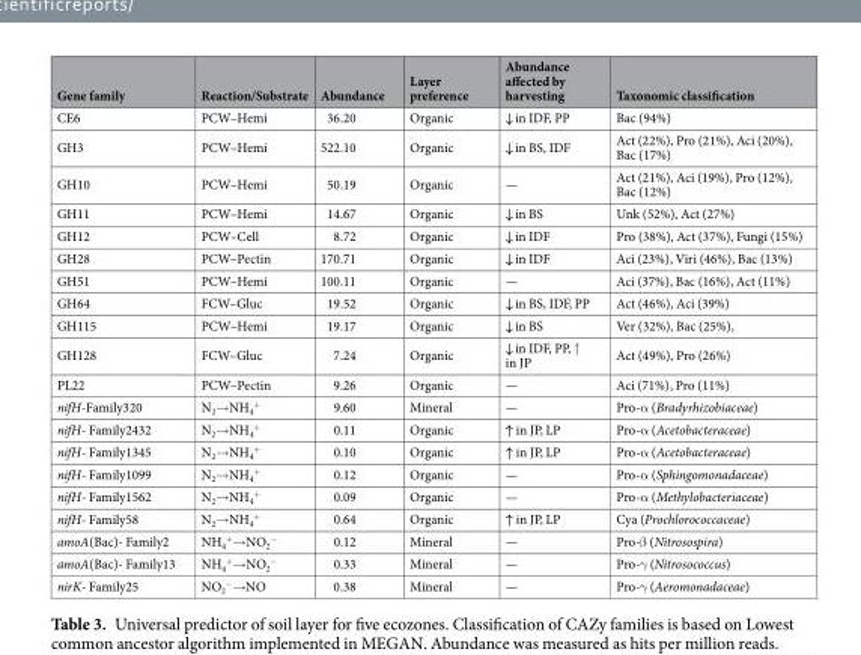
<table><thead><tr><td>Gene family</td><td>Reaction/Substrate</td><td>Abundance</td><td>Layer preference</td><td>Abundance affected by harvesting</td><td>Taxonomic classification</td></tr></thead><tbody><tr><td>CE6</td><td>PCW–Hemi</td><td>36.20</td><td>Organic</td><td>↓ in IDF, PP</td><td>Bac (94%)</td></tr><tr><td>GH3</td><td>PCW–Hemi</td><td>522.10</td><td>Organic</td><td>↓ in BS, IDF</td><td>Act (22%), Pro (21%), Aci (20%), Bac (17%)</td></tr><tr><td>GH10</td><td>PCW–Hemi</td><td>50.19</td><td>Organic</td><td>—</td><td>Act (21%), Aci (19%), Pro (12%), Bac (12%)</td></tr><tr><td>GH11</td><td>PCW–Hemi</td><td>14.67</td><td>Organic</td><td>↓ in BS</td><td>Unk (52%), Act (27%)</td></tr><tr><td>GH12</td><td>PCW–Cell</td><td>8.72</td><td>Organic</td><td>↓ in IDF</td><td>Pro (38%), Act (37%), Fungi (15%)</td></tr><tr><td>GH28</td><td>PCW–Pectin</td><td>170.71</td><td>Organic</td><td>↓ in IDF</td><td>Aci (23%), Viri (46%), Bac (13%)</td></tr><tr><td>GH51</td><td>PCW–Hemi</td><td>100.11</td><td>Organic</td><td>—</td><td>Aci (37%), Bac (16%), Act (11%)</td></tr><tr><td>GH64</td><td>FCW–Gluc</td><td>19.52</td><td>Organic</td><td>↓ in BS, IDF, PP</td><td>Act (46%), Aci (39%)</td></tr><tr><td>GH115</td><td>PCW–Hemi</td><td>19.17</td><td>Organic</td><td>↓ in BS</td><td>Ver (32%), Bac (25%),</td></tr><tr><td>GH128</td><td>FCW–Gluc</td><td>7.24</td><td>Organic</td><td>↓ in IDF, PP, ↑ in JP</td><td>Act (49%), Pro (26%)</td></tr><tr><td>PL22</td><td>PCW–Pectin</td><td>9.26</td><td>Organic</td><td>—</td><td>Aci (71%), Pro (11%)</td></tr><tr><td>nifH-Family320</td><td>N<sub>2</sub>→NH<sub>4</sub> <sup>+</sup></td><td>9.60</td><td>Mineral</td><td>—</td><td>Pro-α (Bradyrhizobiaceae)</td></tr><tr><td>nifH- Family2432</td><td>N<sub>2</sub>→NH<sub>4</sub> <sup>+</sup></td><td>0.11</td><td>Organic</td><td>↑ in JP, LP</td><td>Pro-α (Acetobacteraceae)</td></tr><tr><td>nifH- Family1345</td><td>N<sub>2</sub>→NH<sub>4</sub> <sup>+</sup></td><td>0.10</td><td>Organic</td><td>↑ in JP, LP</td><td>Pro-α (Acetobacteraceae)</td></tr><tr><td>nifH- Family1099</td><td>N<sub>2</sub>→NH<sub>4</sub> <sup>+</sup></td><td>0.12</td><td>Organic</td><td>—</td><td>Pro-α (Sphingomonadaceae)</td></tr><tr><td>nifH- Family1562</td><td>N<sub>2</sub>→NH<sub>4</sub> <sup>+</sup></td><td>0.09</td><td>Organic</td><td>—</td><td>Pro-α (Methylobacteriaceae)</td></tr><tr><td>nifH- Family58</td><td>N<sub>2</sub>→NH<sub>4</sub> <sup>+</sup></td><td>0.64</td><td>Organic</td><td>↑ in JP, LP</td><td>Cya (Prochlorococcaceae)</td></tr><tr><td>amoA(Bac)- Family2</td><td>NH<sub>4</sub> <sup>+</sup>→NO<sub>2</sub> <sup>−</sup></td><td>0.12</td><td>Mineral</td><td>—</td><td>Pro-β (Nitrosospira)</td></tr><tr><td>amoA(Bac)- Family13</td><td>NH<sub>4</sub> <sup>+</sup>→NO<sub>2</sub> <sup>−</sup></td><td>0.33</td><td>Mineral</td><td>—</td><td>Pro-γ (Nitrosococcus)</td></tr><tr><td>nirK- Family25</td><td>NO<sub>2</sub> <sup>−</sup>→NO</td><td>0.38</td><td>Mineral</td><td>—</td><td>Pro-γ (Aeromonadaceae)</td></tr></tbody></table>